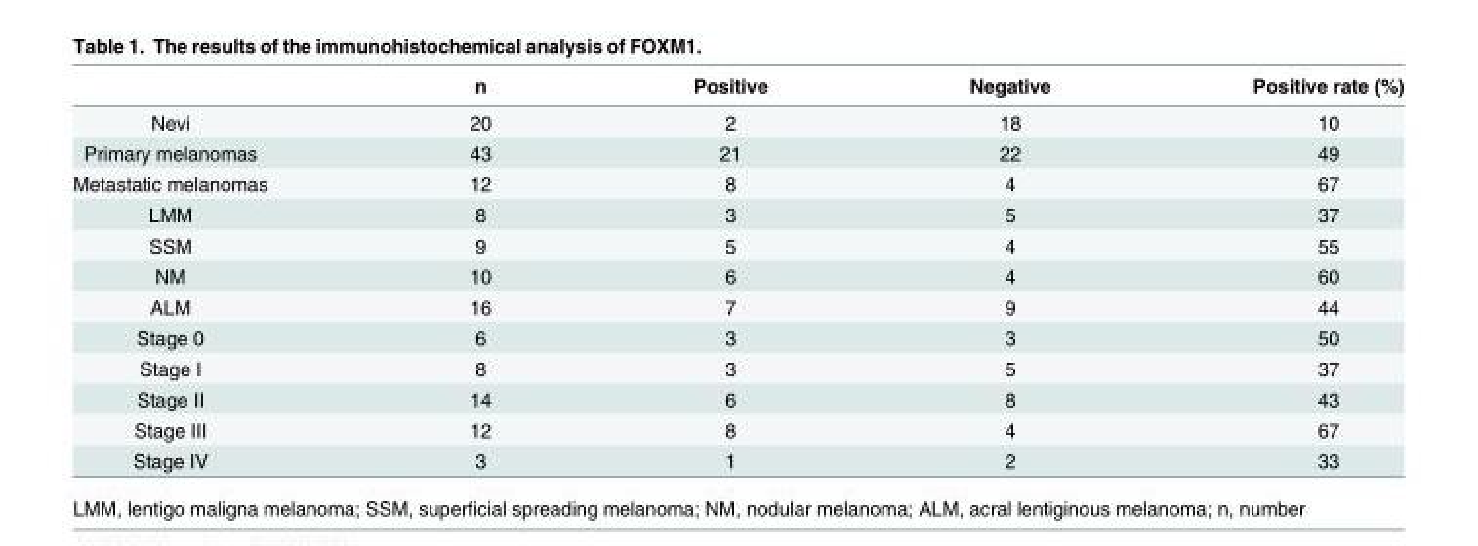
<table><thead><tr><td></td><td>n</td><td>Positive</td><td>Negative</td><td>Positive rate (%)</td></tr></thead><tbody><tr><td>Nevi</td><td>20</td><td>2</td><td>18</td><td>10</td></tr><tr><td>Primary melanomas</td><td>43</td><td>21</td><td>22</td><td>49</td></tr><tr><td>Metastatic melanomas</td><td>12</td><td>8</td><td>4</td><td>67</td></tr><tr><td>LMM</td><td>8</td><td>3</td><td>5</td><td>37</td></tr><tr><td>SSM</td><td>9</td><td>5</td><td>4</td><td>55</td></tr><tr><td>NM</td><td>10</td><td>6</td><td>4</td><td>60</td></tr><tr><td>ALM</td><td>16</td><td>7</td><td>9</td><td>44</td></tr><tr><td>Stage 0</td><td>6</td><td>3</td><td>3</td><td>50</td></tr><tr><td>Stage I</td><td>8</td><td>3</td><td>5</td><td>37</td></tr><tr><td>Stage II</td><td>14</td><td>6</td><td>8</td><td>43</td></tr><tr><td>Stage III</td><td>12</td><td>8</td><td>4</td><td>67</td></tr><tr><td>Stage IV</td><td>3</td><td>1</td><td>2</td><td>33</td></tr></tbody></table>